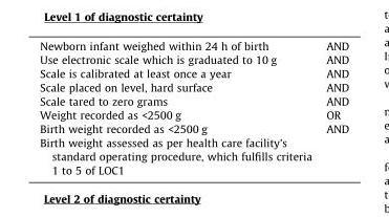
<table><tbody><tr><td>Newborn infant weighed within 24 h of birth</td><td>AND</td></tr><tr><td>Use electronic scale which is graduated to 10 g</td><td>AND</td></tr><tr><td>Scale is calibrated at least once a year</td><td>AND</td></tr><tr><td>Scale placed on level, hard surface</td><td>AND</td></tr><tr><td>Scale tared to zero grams</td><td>AND</td></tr><tr><td>Weight recorded as &lt;2500 g</td><td>OR</td></tr><tr><td>Birth weight recorded as &lt;2500 g</td><td>AND</td></tr><tr><td>Birth weight assessed as per health care facility’s standard operating procedure, which fulfills criteria 1 to 5 of LOC1</td><td></td></tr></tbody></table>